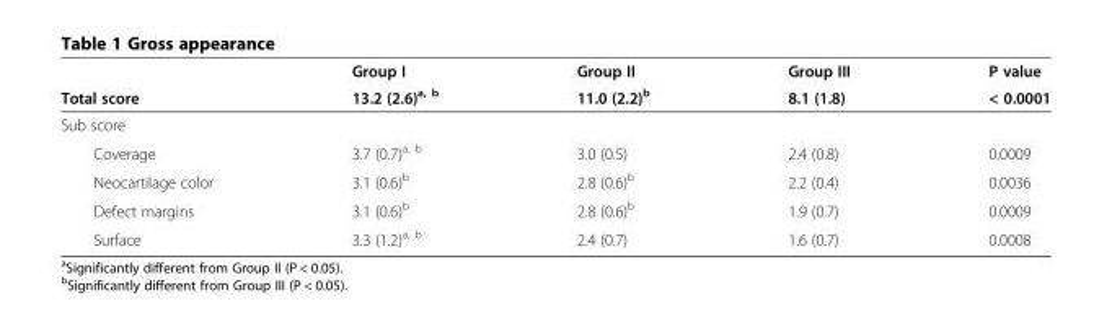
<table><thead><tr><td rowspan="2">Total score</td><td rowspan="2">Group I 13.2 (2.6)<sup>a, b</sup></td><td rowspan="2">Group II 11.0 (2.2)<sup>b</sup></td><td rowspan="2">Group III 8.1 (1.8)</td><td rowspan="2">P value &lt; 0.0001</td></tr><tr></tr></thead><tbody><tr><td colspan="5">Sub score</td></tr><tr><td>Coverage</td><td>3.7 (0.7)<sup>a, b</sup></td><td>3.0 (0.5)</td><td>2.4 (0.8)</td><td>0.0009</td></tr><tr><td>Neocartilage color</td><td>3.1 (0.6)<sup>b</sup></td><td>2.8 (0.6)<sup>b</sup></td><td>2.2 (0.4)</td><td>0.0036</td></tr><tr><td>Defect margins</td><td>3.1 (0.6)<sup>b</sup></td><td>2.8 (0.6)<sup>b</sup></td><td>1.9 (0.7)</td><td>0.0009</td></tr><tr><td>Surface</td><td>3.3 (1.2)<sup>a, b</sup></td><td>2.4 (0.7)</td><td>1.6 (0.7)</td><td>0.0008</td></tr></tbody></table>